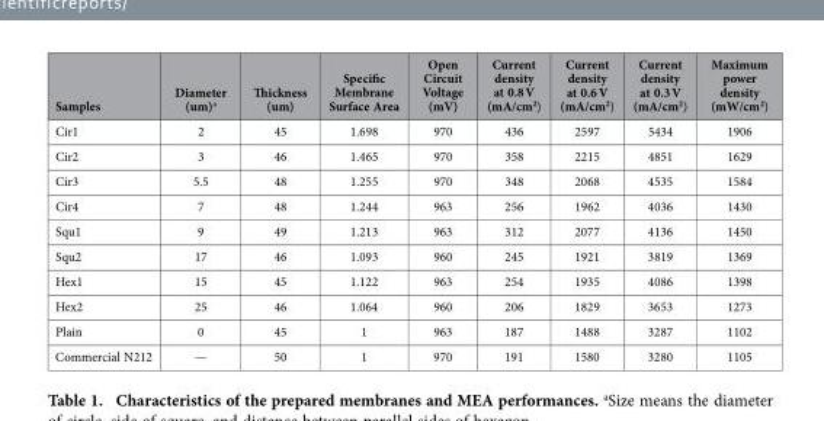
<table><thead><tr><td>Samples</td><td>Diameter (um)<sup>a</sup></td><td>Thickness (um)</td><td>Specific Membrane Surface Area</td><td>Open Circuit Voltage (mV)</td><td>Current density at 0.8 V (mA/cm<sup>2</sup>)</td><td>Current density at 0.6 V (mA/cm<sup>2</sup>)</td><td>Current density at 0.3 V (mA/cm<sup>2</sup>)</td><td>Maximum power density (mW/cm<sup>2</sup>)</td></tr></thead><tbody><tr><td>Cir1</td><td>2</td><td>45</td><td>1.698</td><td>970</td><td>436</td><td>2597</td><td>5434</td><td>1906</td></tr><tr><td>Cir2</td><td>3</td><td>46</td><td>1.465</td><td>970</td><td>358</td><td>2215</td><td>4851</td><td>1629</td></tr><tr><td>Cir3</td><td>5.5</td><td>48</td><td>1.255</td><td>970</td><td>348</td><td>2068</td><td>4535</td><td>1584</td></tr><tr><td>Cir4</td><td>7</td><td>48</td><td>1.244</td><td>963</td><td>256</td><td>1962</td><td>4036</td><td>1430</td></tr><tr><td>Squ1</td><td>9</td><td>49</td><td>1.213</td><td>963</td><td>312</td><td>2077</td><td>4136</td><td>1450</td></tr><tr><td>Squ2</td><td>17</td><td>46</td><td>1.093</td><td>960</td><td>245</td><td>1921</td><td>3819</td><td>1369</td></tr><tr><td>Hex1</td><td>15</td><td>45</td><td>1.122</td><td>963</td><td>254</td><td>1935</td><td>4086</td><td>1398</td></tr><tr><td>Hex2</td><td>25</td><td>46</td><td>1.064</td><td>960</td><td>206</td><td>1829</td><td>3653</td><td>1273</td></tr><tr><td>Plain</td><td>0</td><td>45</td><td>1</td><td>963</td><td>187</td><td>1488</td><td>3287</td><td>1102</td></tr><tr><td>Commercial N212</td><td>—</td><td>50</td><td>1</td><td>970</td><td>191</td><td>1580</td><td>3280</td><td>1105</td></tr></tbody></table>